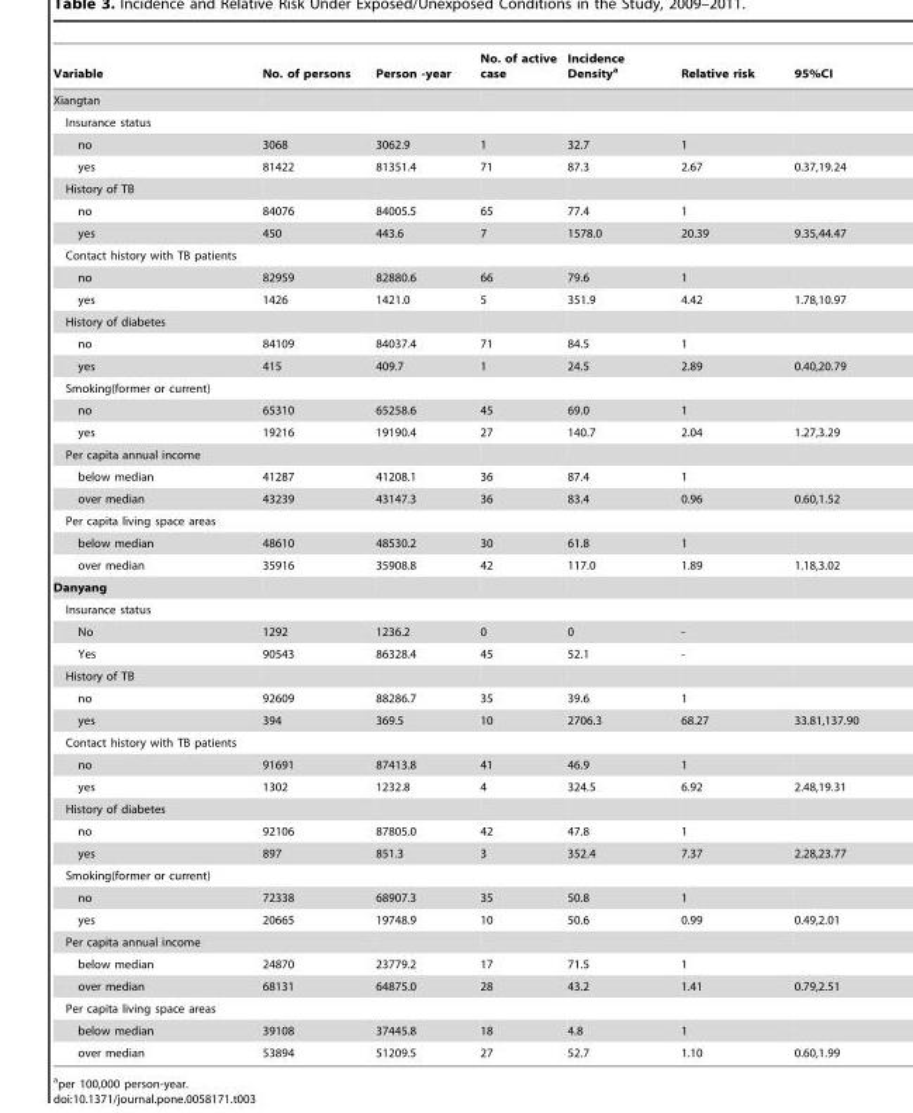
<table><thead><tr><td>Variable</td><td>No. of persons</td><td>Person -year</td><td>No. of active case</td><td>Incidence Density<sup>a</sup></td><td>Relative risk</td><td>95%CI</td></tr></thead><tbody><tr><td colspan="7">Xiangtan</td></tr><tr><td colspan="7">Insurance status</td></tr><tr><td>no</td><td>3068</td><td>3062.9</td><td>1</td><td>32.7</td><td>1</td><td></td></tr><tr><td>yes</td><td>81422</td><td>81351.4</td><td>71</td><td>87.3</td><td>2.67</td><td>0.37,19.24</td></tr><tr><td colspan="7">History of TB</td></tr><tr><td>no</td><td>84076</td><td>84005.5</td><td>65</td><td>77.4</td><td>1</td><td></td></tr><tr><td>yes</td><td>450</td><td>443.6</td><td>7</td><td>1578.0</td><td>20.39</td><td>9.35,44.47</td></tr><tr><td colspan="7">Contact history with TB patients</td></tr><tr><td>no</td><td>82959</td><td>82880.6</td><td>66</td><td>79.6</td><td>1</td><td></td></tr><tr><td>yes</td><td>1426</td><td>1421.0</td><td>5</td><td>351.9</td><td>4.42</td><td>1.78,10.97</td></tr><tr><td colspan="7">History of diabetes</td></tr><tr><td>no</td><td>84109</td><td>84037.4</td><td>71</td><td>84.5</td><td>1</td><td></td></tr><tr><td>yes</td><td>415</td><td>409.7</td><td>1</td><td>24.5</td><td>2.89</td><td>0.40,20.79</td></tr><tr><td colspan="7">Smoking(former or current)</td></tr><tr><td>no</td><td>65310</td><td>65258.6</td><td>45</td><td>69.0</td><td>1</td><td></td></tr><tr><td>yes</td><td>19216</td><td>19190.4</td><td>27</td><td>140.7</td><td>2.04</td><td>1.27,3.29</td></tr><tr><td colspan="7">Per capita annual income</td></tr><tr><td>below median</td><td>41287</td><td>41208.1</td><td>36</td><td>87.4</td><td>1</td><td></td></tr><tr><td>over median</td><td>43239</td><td>43147.3</td><td>36</td><td>83.4</td><td>0.96</td><td>0.60,1.52</td></tr><tr><td colspan="7">Per capita living space areas</td></tr><tr><td>below median</td><td>48610</td><td>48530.2</td><td>30</td><td>61.8</td><td>1</td><td></td></tr><tr><td>over median</td><td>35916</td><td>35908.8</td><td>42</td><td>117.0</td><td>1.89</td><td>1.18,3.02</td></tr><tr><td colspan="7">Danyang</td></tr><tr><td colspan="7">Insurance status</td></tr><tr><td>No</td><td>1292</td><td>1236.2</td><td>0</td><td>0</td><td>-</td><td></td></tr><tr><td>Yes</td><td>90543</td><td>86328.4</td><td>45</td><td>52.1</td><td>-</td><td></td></tr><tr><td colspan="7">History of TB</td></tr><tr><td>no</td><td>92609</td><td>88286.7</td><td>35</td><td>39.6</td><td>1</td><td></td></tr><tr><td>yes</td><td>394</td><td>369.5</td><td>10</td><td>2706.3</td><td>68.27</td><td>33.81,137.90</td></tr><tr><td colspan="7">Contact history with TB patients</td></tr><tr><td>no</td><td>91691</td><td>87413.8</td><td>41</td><td>46.9</td><td>1</td><td></td></tr><tr><td>yes</td><td>1302</td><td>1232.8</td><td>4</td><td>324.5</td><td>6.92</td><td>2.48,19.31</td></tr><tr><td colspan="7">History of diabetes</td></tr><tr><td>no</td><td>92106</td><td>87805.0</td><td>42</td><td>47.8</td><td>1</td><td></td></tr><tr><td>yes</td><td>897</td><td>851.3</td><td>3</td><td>352.4</td><td>7.37</td><td>2.28,23.77</td></tr><tr><td colspan="7">Smoking(former or current)</td></tr><tr><td>no</td><td>72338</td><td>68907.3</td><td>35</td><td>50.8</td><td>1</td><td></td></tr><tr><td>yes</td><td>20665</td><td>19748.9</td><td>10</td><td>50.6</td><td>0.99</td><td>0.49,2.01</td></tr><tr><td colspan="7">Per capita annual income</td></tr><tr><td>below median</td><td>24870</td><td>23779.2</td><td>17</td><td>71.5</td><td>1</td><td></td></tr><tr><td>over median</td><td>68131</td><td>64875.0</td><td>28</td><td>43.2</td><td>1.41</td><td>0.79,2.51</td></tr><tr><td colspan="7">Per capita living space areas</td></tr><tr><td>below median</td><td>39108</td><td>37445.8</td><td>18</td><td>4.8</td><td>1</td><td></td></tr><tr><td>over median</td><td>53894</td><td>51209.5</td><td>27</td><td>52.7</td><td>1.10</td><td>0.60,1.99</td></tr></tbody></table>